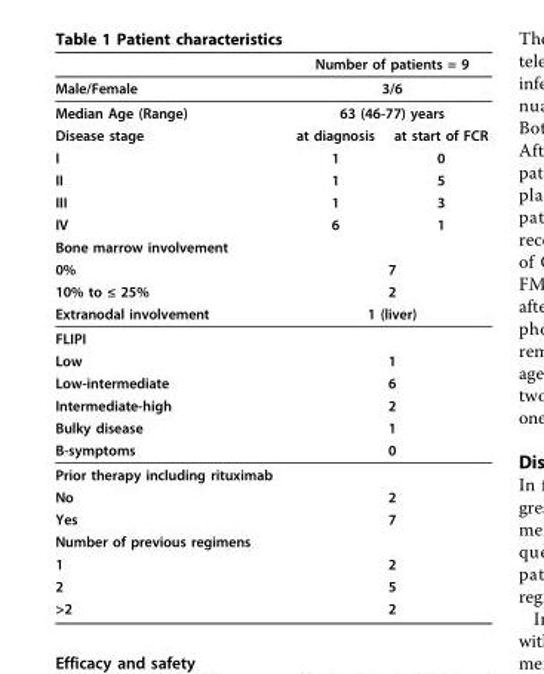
<table><thead><tr><td rowspan="4">Male/Female Median Age (Range) Disease stage</td><td rowspan="3" colspan="2">Number of patients = 9 3/6 63 (46-77) years</td></tr><tr></tr><tr></tr><tr><td>at diagnosis</td><td>at start of FCR</td></tr></thead><tbody><tr><td>I</td><td>1</td><td>0</td></tr><tr><td>II</td><td>1</td><td>5</td></tr><tr><td>III</td><td>1</td><td>3</td></tr><tr><td>IV</td><td>6</td><td>1</td></tr><tr><td colspan="3">Bone marrow involvement</td></tr><tr><td>0%</td><td colspan="2">7</td></tr><tr><td>10% to ≤ 25%</td><td colspan="2">2</td></tr><tr><td>Extranodal involvement</td><td colspan="2">1 (liver)</td></tr><tr><td colspan="3">FLIPI</td></tr><tr><td>Low</td><td colspan="2">1</td></tr><tr><td>Low-intermediate</td><td colspan="2">6</td></tr><tr><td>Intermediate-high</td><td colspan="2">2</td></tr><tr><td>Bulky disease</td><td colspan="2">1</td></tr><tr><td>B-symptoms</td><td colspan="2">0</td></tr><tr><td colspan="3">Prior therapy including rituximab</td></tr><tr><td>No</td><td colspan="2">2</td></tr><tr><td>Yes</td><td colspan="2">7</td></tr><tr><td colspan="3">Number of previous regimens</td></tr><tr><td>1</td><td colspan="2">2</td></tr><tr><td>2</td><td colspan="2">5</td></tr><tr><td>&gt;2</td><td colspan="2">2</td></tr></tbody></table>